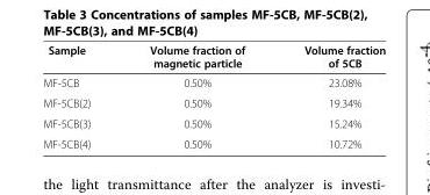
<table><thead><tr><td>Sample</td><td>Volume fraction of magnetic particle</td><td>Volume fraction of 5CB</td></tr></thead><tbody><tr><td>MF-5CB</td><td>0.50%</td><td>23.08%</td></tr><tr><td>MF-5CB(2)</td><td>0.50%</td><td>19.34%</td></tr><tr><td>MF-5CB(3)</td><td>0.50%</td><td>15.24%</td></tr><tr><td>MF-5CB(4)</td><td>0.50%</td><td>10.72%</td></tr></tbody></table>